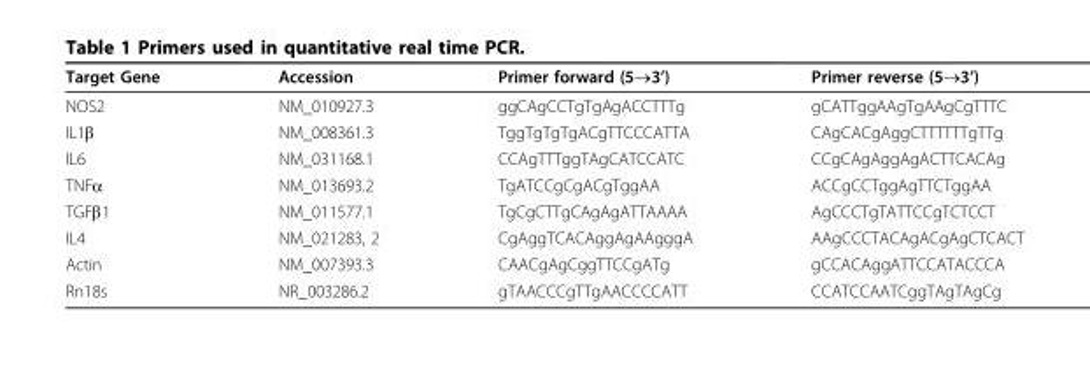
<table><thead><tr><td>Target Gene</td><td>Accession</td><td>Primer forward (5→3’)</td><td>Primer reverse (5→3’)</td></tr></thead><tbody><tr><td>NOS2</td><td>NM_010927.3</td><td>ggCAgCCTgTgAgACCTTTg</td><td>gCATTggAAgTgAAgCgTTTC</td></tr><tr><td>IL1β</td><td>NM_008361.3</td><td>TggTgTgTgACgTTCCCATTA</td><td>CAgCACgAggCTTTTTTgTTg</td></tr><tr><td>IL6</td><td>NM_031168.1</td><td>CCAgTTTggTAgCATCCATC</td><td>CCgCAgAggAgACTTCACAg</td></tr><tr><td>TNFα</td><td>NM_013693.2</td><td>TgATCCgCgACgTggAA</td><td>ACCgCCTggAgTTCTggAA</td></tr><tr><td>TGFβ1</td><td>NM_011577.1</td><td>TgCgCTTgCAgAgATTAAAA</td><td>AgCCCTgTATTCCgTCTCCT</td></tr><tr><td>IL4</td><td>NM_021283, 2</td><td>CgAggTCACAggAgAAgggA</td><td>AAgCCCTACAgACgAgCTCACT</td></tr><tr><td>Actin</td><td>NM_007393.3</td><td>CAACgAgCggTTCCgATg</td><td>gCCACAggATTCCATACCCA</td></tr><tr><td>Rn18s</td><td>NR_003286.2</td><td>gTAACCCgTTgAACCCCATT</td><td>CCATCCAATCggTAgTAgCg</td></tr></tbody></table>